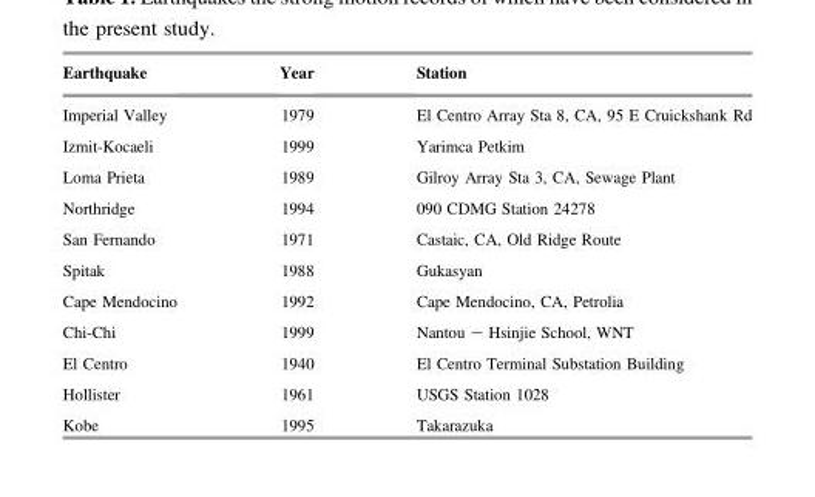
<table><thead><tr><td>Earthquake</td><td>Year</td><td>Station</td></tr></thead><tbody><tr><td>Imperial Valley</td><td>1979</td><td>El Centro Array Sta 8, CA, 95 E Cruickshank Rd</td></tr><tr><td>Izmit-Kocaeli</td><td>1999</td><td>Yarimca Petkim</td></tr><tr><td>Loma Prieta</td><td>1989</td><td>Gilroy Array Sta 3, CA, Sewage Plant</td></tr><tr><td>Northridge</td><td>1994</td><td>090 CDMG Station 24278</td></tr><tr><td>San Fernando</td><td>1971</td><td>Castaic, CA, Old Ridge Route</td></tr><tr><td>Spitak</td><td>1988</td><td>Gukasyan</td></tr><tr><td>Cape Mendocino</td><td>1992</td><td>Cape Mendocino, CA, Petrolia</td></tr><tr><td>Chi-Chi</td><td>1999</td><td>Nantou – Hsinjie School, WNT</td></tr><tr><td>El Centro</td><td>1940</td><td>El Centro Terminal Substation Building</td></tr><tr><td>Hollister</td><td>1961</td><td>USGS Station 1028</td></tr><tr><td>Kobe</td><td>1995</td><td>Takarazuka</td></tr></tbody></table>